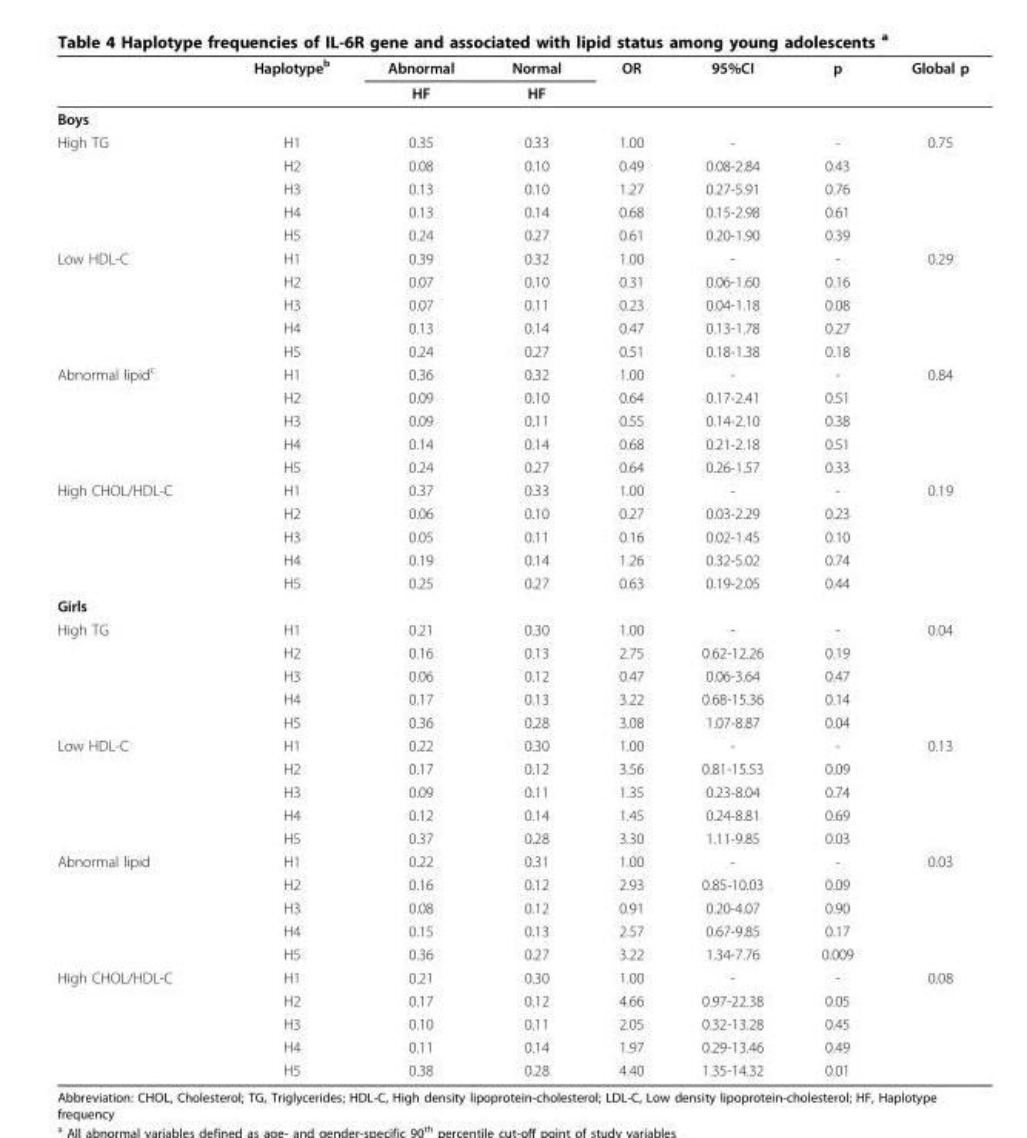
<table><thead><tr><td rowspan="2"></td><td rowspan="2">Haplotype<sup>b</sup></td><td rowspan="2">Abnormal HF</td><td rowspan="2">Normal HF</td><td rowspan="2">OR</td><td rowspan="2">95%CI</td><td rowspan="2">p</td><td rowspan="2">Global p</td></tr><tr></tr></thead><tbody><tr><td colspan="8">Boys</td></tr><tr><td rowspan="5">High TG</td><td>H1</td><td>0.35</td><td>0.33</td><td>1.00</td><td>-</td><td>-</td><td>0.75</td></tr><tr><td>H2</td><td>0.08</td><td>0.10</td><td>0.49</td><td>0.08-2.84</td><td>0.43</td><td></td></tr><tr><td>H3</td><td>0.13</td><td>0.10</td><td>1.27</td><td>0.27-5.91</td><td>0.76</td><td></td></tr><tr><td>H4</td><td>0.13</td><td>0.14</td><td>0.68</td><td>0.15-2.98</td><td>0.61</td><td></td></tr><tr><td>H5</td><td>0.24</td><td>0.27</td><td>0.61</td><td>0.20-1.90</td><td>0.39</td><td></td></tr><tr><td rowspan="5">Low HDL-C</td><td>H1</td><td>0.39</td><td>0.32</td><td>1.00</td><td>-</td><td>-</td><td>0.29</td></tr><tr><td>H2</td><td>0.07</td><td>0.10</td><td>0.31</td><td>0.06-1.60</td><td>0.16</td><td></td></tr><tr><td>H3</td><td>0.07</td><td>0.11</td><td>0.23</td><td>0.04-1.18</td><td>0.08</td><td></td></tr><tr><td>H4</td><td>0.13</td><td>0.14</td><td>0.47</td><td>0.13-1.78</td><td>0.27</td><td></td></tr><tr><td>H5</td><td>0.24</td><td>0.27</td><td>0.51</td><td>0.18-1.38</td><td>0.18</td><td></td></tr><tr><td rowspan="5">Abnormal lipid<sup>c</sup></td><td>H1</td><td>0.36</td><td>0.32</td><td>1.00</td><td>-</td><td>-</td><td>0.84</td></tr><tr><td>H2</td><td>0.09</td><td>0.10</td><td>0.64</td><td>0.17-2.41</td><td>0.51</td><td></td></tr><tr><td>H3</td><td>0.09</td><td>0.11</td><td>0.55</td><td>0.14-2.10</td><td>0.38</td><td></td></tr><tr><td>H4</td><td>0.14</td><td>0.14</td><td>0.68</td><td>0.21-2.18</td><td>0.51</td><td></td></tr><tr><td>H5</td><td>0.24</td><td>0.27</td><td>0.64</td><td>0.26-1.57</td><td>0.33</td><td></td></tr><tr><td rowspan="5">High CHOL/HDL-C</td><td>H1</td><td>0.37</td><td>0.33</td><td>1.00</td><td>-</td><td>-</td><td>0.19</td></tr><tr><td>H2</td><td>0.06</td><td>0.10</td><td>0.27</td><td>0.03-2.29</td><td>0.23</td><td></td></tr><tr><td>H3</td><td>0.05</td><td>0.11</td><td>0.16</td><td>0.02-1.45</td><td>0.10</td><td></td></tr><tr><td>H4</td><td>0.19</td><td>0.14</td><td>1.26</td><td>0.32-5.02</td><td>0.74</td><td></td></tr><tr><td>H5</td><td>0.25</td><td>0.27</td><td>0.63</td><td>0.19-2.05</td><td>0.44</td><td></td></tr><tr><td colspan="8">Girls</td></tr><tr><td rowspan="5">High TG</td><td>H1</td><td>0.21</td><td>0.30</td><td>1.00</td><td>-</td><td>-</td><td>0.04</td></tr><tr><td>H2</td><td>0.16</td><td>0.13</td><td>2.75</td><td>0.62-12.26</td><td>0.19</td><td></td></tr><tr><td>H3</td><td>0.06</td><td>0.12</td><td>0.47</td><td>0.06-3.64</td><td>0.47</td><td></td></tr><tr><td>H4</td><td>0.17</td><td>0.13</td><td>3.22</td><td>0.68-15.36</td><td>0.14</td><td></td></tr><tr><td>H5</td><td>0.36</td><td>0.28</td><td>3.08</td><td>1.07-8.87</td><td>0.04</td><td></td></tr><tr><td rowspan="5">Low HDL-C</td><td>H1</td><td>0.22</td><td>0.30</td><td>1.00</td><td>-</td><td>-</td><td>0.13</td></tr><tr><td>H2</td><td>0.17</td><td>0.12</td><td>3.56</td><td>0.81-15.53</td><td>0.09</td><td></td></tr><tr><td>H3</td><td>0.09</td><td>0.11</td><td>1.35</td><td>0.23-8.04</td><td>0.74</td><td></td></tr><tr><td>H4</td><td>0.12</td><td>0.14</td><td>1.45</td><td>0.24-8.81</td><td>0.69</td><td></td></tr><tr><td>H5</td><td>0.37</td><td>0.28</td><td>3.30</td><td>1.11-9.85</td><td>0.03</td><td></td></tr><tr><td rowspan="5">Abnormal lipid</td><td>H1</td><td>0.22</td><td>0.31</td><td>1.00</td><td>-</td><td>-</td><td>0.03</td></tr><tr><td>H2</td><td>0.16</td><td>0.12</td><td>2.93</td><td>0.85-10.03</td><td>0.09</td><td></td></tr><tr><td>H3</td><td>0.08</td><td>0.12</td><td>0.91</td><td>0.20-4.07</td><td>0.90</td><td></td></tr><tr><td>H4</td><td>0.15</td><td>0.13</td><td>2.57</td><td>0.67-9.85</td><td>0.17</td><td></td></tr><tr><td>H5</td><td>0.36</td><td>0.27</td><td>3.22</td><td>1.34-7.76</td><td>0.009</td><td></td></tr><tr><td rowspan="5">High CHOL/HDL-C</td><td>H1</td><td>0.21</td><td>0.30</td><td>1.00</td><td>-</td><td>-</td><td>0.08</td></tr><tr><td>H2</td><td>0.17</td><td>0.12</td><td>4.66</td><td>0.97-22.38</td><td>0.05</td><td></td></tr><tr><td>H3</td><td>0.10</td><td>0.11</td><td>2.05</td><td>0.32-13.28</td><td>0.45</td><td></td></tr><tr><td>H4</td><td>0.11</td><td>0.14</td><td>1.97</td><td>0.29-13.46</td><td>0.49</td><td></td></tr><tr><td>H5</td><td>0.38</td><td>0.28</td><td>4.40</td><td>1.35-14.32</td><td>0.01</td><td></td></tr></tbody></table>